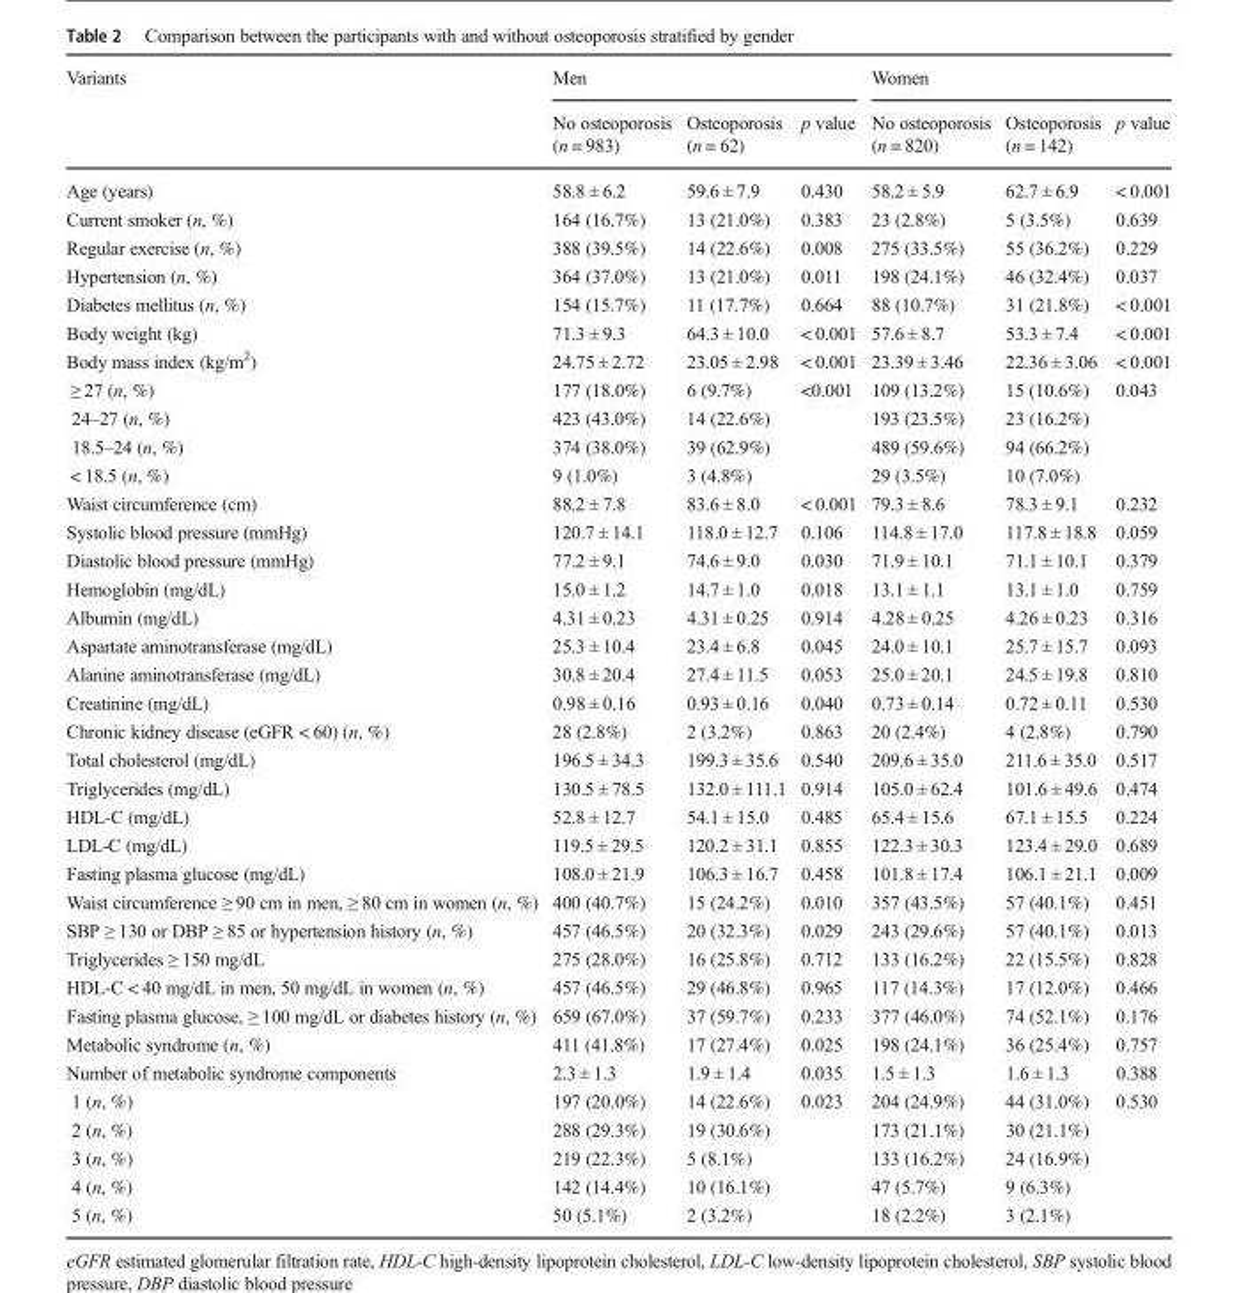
<table><thead><tr><td rowspan="2">Variants</td><td colspan="3">Men</td><td colspan="3">Women</td></tr><tr><td>No osteoporosis (n = 983)</td><td>Osteoporosis (n = 62)</td><td>p value</td><td>No osteoporosis (n = 820)</td><td>Osteoporosis (n = 142)</td><td>p value</td></tr></thead><tbody><tr><td>Age (years)</td><td>58.8 ± 6.2</td><td>59.6 ± 7.9</td><td>0.430</td><td>58.2 ± 5.9</td><td>62.7 ± 6.9</td><td>&lt; 0.001</td></tr><tr><td>Current smoker (n, %)</td><td>164 (16.7%)</td><td>13 (21.0%)</td><td>0.383</td><td>23 (2.8%)</td><td>5 (3.5%)</td><td>0.639</td></tr><tr><td>Regular exercise (n, %)</td><td>388 (39.5%)</td><td>14 (22.6%)</td><td>0.008</td><td>275 (33.5%)</td><td>55 (36.2%)</td><td>0.229</td></tr><tr><td>Hypertension (n, %)</td><td>364 (37.0%)</td><td>13 (21.0%)</td><td>0.011</td><td>198 (24.1%)</td><td>46 (32.4%)</td><td>0.037</td></tr><tr><td>Diabetes mellitus (n, %)</td><td>154 (15.7%)</td><td>11 (17.7%)</td><td>0.664</td><td>88 (10.7%)</td><td>31 (21.8%)</td><td>&lt; 0.001</td></tr><tr><td>Body weight (kg)</td><td>71.3 ± 9.3</td><td>64.3 ± 10.0</td><td>&lt; 0.001</td><td>57.6 ± 8.7</td><td>53.3 ± 7.4</td><td>&lt; 0.001</td></tr><tr><td>Body mass index (kg/m<sup>2</sup>)</td><td>24.75 ± 2.72</td><td>23.05 ± 2.98</td><td>&lt; 0.001</td><td>23.39 ± 3.46</td><td>22.36 ± 3.06</td><td>&lt; 0.001</td></tr><tr><td>≥ 27 (n, %)</td><td>177 (18.0%)</td><td>6 (9.7%)</td><td>&lt;0.001</td><td>109 (13.2%)</td><td>15 (10.6%)</td><td>0.043</td></tr><tr><td>24–27 (n, %)</td><td>423 (43.0%)</td><td>14 (22.6%)</td><td></td><td>193 (23.5%)</td><td>23 (16.2%)</td><td></td></tr><tr><td>18.5–24 (n, %)</td><td>374 (38.0%)</td><td>39 (62.9%)</td><td></td><td>489 (59.6%)</td><td>94 (66.2%)</td><td></td></tr><tr><td>&lt; 18.5 (n, %)</td><td>9 (1.0%)</td><td>3 (4.8%)</td><td></td><td>29 (3.5%)</td><td>10 (7.0%)</td><td></td></tr><tr><td>Waist circumference (cm)</td><td>88.2 ± 7.8</td><td>83.6 ± 8.0</td><td>&lt; 0.001</td><td>79.3 ± 8.6</td><td>78.3 ± 9.1</td><td>0.232</td></tr><tr><td>Systolic blood pressure (mmHg)</td><td>120.7 ± 14.1</td><td>118.0 ± 12.7</td><td>0.106</td><td>114.8 ± 17.0</td><td>117.8 ± 18.8</td><td>0.059</td></tr><tr><td>Diastolic blood pressure (mmHg)</td><td>77.2 ± 9.1</td><td>74.6 ± 9.0</td><td>0.030</td><td>71.9 ± 10.1</td><td>71.1 ± 10.1</td><td>0.379</td></tr><tr><td>Hemoglobin (mg/dL)</td><td>15.0 ± 1.2</td><td>14.7 ± 1.0</td><td>0.018</td><td>13.1 ± 1.1</td><td>13.1 ± 1.0</td><td>0.759</td></tr><tr><td>Albumin (mg/dL)</td><td>4.31 ± 0.23</td><td>4.31 ± 0.25</td><td>0.914</td><td>4.28 ± 0.25</td><td>4.26 ± 0.23</td><td>0.316</td></tr><tr><td>Aspartate aminotransferase (mg/dL)</td><td>25.3 ± 10.4</td><td>23.4 ± 6.8</td><td>0.045</td><td>24.0 ± 10.1</td><td>25.7 ± 15.7</td><td>0.093</td></tr><tr><td>Alanine aminotransferase (mg/dL)</td><td>30.8 ± 20.4</td><td>27.4 ± 11.5</td><td>0.053</td><td>25.0 ± 20.1</td><td>24.5 ± 19.8</td><td>0.810</td></tr><tr><td>Creatinine (mg/dL)</td><td>0.98 ± 0.16</td><td>0.93 ± 0.16</td><td>0.040</td><td>0.73 ± 0.14</td><td>0.72 ± 0.11</td><td>0.530</td></tr><tr><td>Chronic kidney disease (eGFR &lt; 60) (n, %)</td><td>28 (2.8%)</td><td>2 (3.2%)</td><td>0.863</td><td>20 (2.4%)</td><td>4 (2.8%)</td><td>0.790</td></tr><tr><td>Total cholesterol (mg/dL)</td><td>196.5 ± 34.3</td><td>199.3 ± 35.6</td><td>0.540</td><td>209.6 ± 35.0</td><td>211.6 ± 35.0</td><td>0.517</td></tr><tr><td>Triglycerides (mg/dL)</td><td>130.5 ± 78.5</td><td>132.0 ± 111.1</td><td>0.914</td><td>105.0 ± 62.4</td><td>101.6 ± 49.6</td><td>0.474</td></tr><tr><td>HDL-C (mg/dL)</td><td>52.8 ± 12.7</td><td>54.1 ± 15.0</td><td>0.485</td><td>65.4 ± 15.6</td><td>67.1 ± 15.5</td><td>0.224</td></tr><tr><td>LDL-C (mg/dL)</td><td>119.5 ± 29.5</td><td>120.2 ± 31.1</td><td>0.855</td><td>122.3 ± 30.3</td><td>123.4 ± 29.0</td><td>0.689</td></tr><tr><td>Fasting plasma glucose (mg/dL)</td><td>108.0 ± 21.9</td><td>106.3 ± 16.7</td><td>0.458</td><td>101.8 ± 17.4</td><td>106.1 ± 21.1</td><td>0.009</td></tr><tr><td>Waist circumference ≥ 90 cm in men, ≥ 80 cm in women (n, %)</td><td>400 (40.7%)</td><td>15 (24.2%)</td><td>0.010</td><td>357 (43.5%)</td><td>57 (40.1%)</td><td>0.451</td></tr><tr><td>SBP ≥ 130 or DBP ≥ 85 or hypertension history (n, %)</td><td>457 (46.5%)</td><td>20 (32.3%)</td><td>0.029</td><td>243 (29.6%)</td><td>57 (40.1%)</td><td>0.013</td></tr><tr><td>Triglycerides ≥ 150 mg/dL</td><td>275 (28.0%)</td><td>16 (25.8%)</td><td>0.712</td><td>133 (16.2%)</td><td>22 (15.5%)</td><td>0.828</td></tr><tr><td>HDL-C &lt; 40 mg/dL in men, 50 mg/dL in women (n, %)</td><td>457 (46.5%)</td><td>29 (46.8%)</td><td>0.965</td><td>117 (14.3%)</td><td>17 (12.0%)</td><td>0.466</td></tr><tr><td>Fasting plasma glucose, ≥ 100 mg/dL or diabetes history (n, %)</td><td>659 (67.0%)</td><td>37 (59.7%)</td><td>0.233</td><td>377 (46.0%)</td><td>74 (52.1%)</td><td>0.176</td></tr><tr><td>Metabolic syndrome (n, %)</td><td>411 (41.8%)</td><td>17 (27.4%)</td><td>0.025</td><td>198 (24.1%)</td><td>36 (25.4%)</td><td>0.757</td></tr><tr><td>Number of metabolic syndrome components</td><td>2.3 ± 1.3</td><td>1.9 ± 1.4</td><td>0.035</td><td>1.5 ± 1.3</td><td>1.6 ± 1.3</td><td>0.388</td></tr><tr><td>1 (n, %)</td><td>197 (20.0%)</td><td>14 (22.6%)</td><td>0.023</td><td>204 (24.9%)</td><td>44 (31.0%)</td><td>0.530</td></tr><tr><td>2 (n, %)</td><td>288 (29.3%)</td><td>19 (30.6%)</td><td></td><td>173 (21.1%)</td><td>30 (21.1%)</td><td></td></tr><tr><td>3 (n, %)</td><td>219 (22.3%)</td><td>5 (8.1%)</td><td></td><td>133 (16.2%)</td><td>24 (16.9%)</td><td></td></tr><tr><td>4 (n, %)</td><td>142 (14.4%)</td><td>10 (16.1%)</td><td></td><td>47 (5.7%)</td><td>9 (6.3%)</td><td></td></tr><tr><td>5 (n, %)</td><td>50 (5.1%)</td><td>2 (3.2%)</td><td></td><td>18 (2.2%)</td><td>3 (2.1%)</td><td></td></tr></tbody></table>